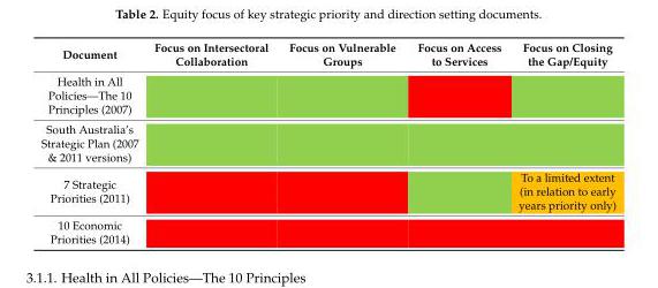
<table><thead><tr><td>Document</td><td>Focus on Intersectoral Collaboration</td><td>Focus on Vulnerable Groups</td><td>Focus on Access to Services</td><td>Focus on Closing the Gap/Equity</td></tr></thead><tbody><tr><td colspan="5">Health in All Policies—The 10 Principles (2007)</td></tr><tr><td colspan="5">South Australia’s Strategic Plan (2007 &amp; 2011 versions)</td></tr><tr><td>7 Strategic Priorities (2011)</td><td></td><td></td><td></td><td>To a limited extent (in relation to early years priority only)</td></tr><tr><td>10 Economic Priorities (2014)</td><td></td><td></td><td></td><td></td></tr></tbody></table>